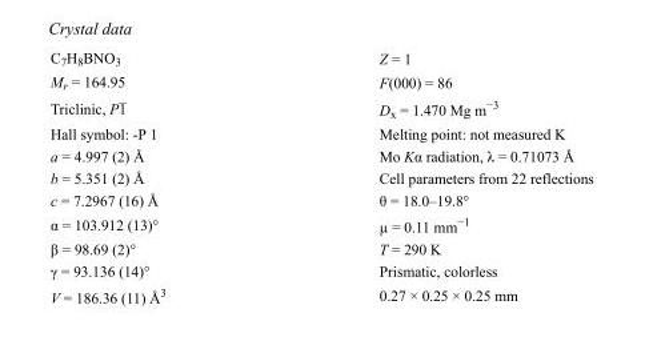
<table><tbody><tr><td>C<sub>7</sub>H<sub>8</sub>BNO<sub>3</sub></td><td>Z = 1</td></tr><tr><td>M<sub>r</sub> = 164.95</td><td>F(000) = 86</td></tr><tr><td>Triclinic, P1</td><td>D<sub>x</sub> = 1.470 Mg m<sup>−3</sup></td></tr><tr><td>Hall symbol: -P 1</td><td>Melting point: not measured K</td></tr><tr><td>a = 4.997 (2) Å</td><td>Mo Kα radiation, λ = 0.71073 Å</td></tr><tr><td>b = 5.351 (2) Å</td><td>Cell parameters from 22 reflections</td></tr><tr><td>c = 7.2967 (16) Å</td><td>θ = 18.0–19.8°</td></tr><tr><td>α = 103.912 (13)°</td><td>µ = 0.11 mm<sup>−1</sup></td></tr><tr><td>β = 98.69 (2)°</td><td>T = 290 K</td></tr><tr><td>γ = 93.136 (14)°</td><td>Prismatic, colorless</td></tr><tr><td>V = 186.36 (11) Å<sup>3</sup></td><td>0.27 × 0.25 × 0.25 mm</td></tr></tbody></table>